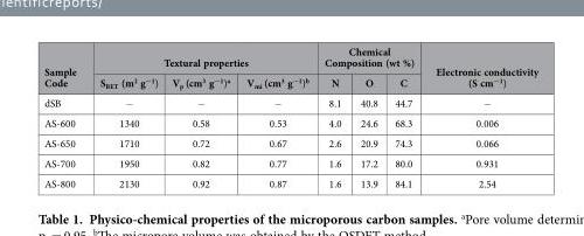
<table><thead><tr><td rowspan="2">Sample Code</td><td colspan="3">Textural properties</td><td colspan="3">Chemical Composition (wt %)</td><td rowspan="2">Electronic conductivity (S cm<sup>−1</sup>)</td></tr><tr><td>S<sub>BET</sub> (m<sup>2</sup> g<sup>−1</sup>)</td><td>V<sub>p</sub> (cm<sup>3</sup> g<sup>−1</sup>)<sup>a</sup></td><td>V<sub>mi</sub> (cm<sup>3</sup> g<sup>−1</sup>)<sup>b</sup></td><td>N</td><td>O</td><td>C</td></tr></thead><tbody><tr><td>dSB</td><td>−</td><td>−</td><td>−</td><td>8.1</td><td>40.8</td><td>44.7</td><td>−</td></tr><tr><td>AS-600</td><td>1340</td><td>0.58</td><td>0.53</td><td>4.0</td><td>24.6</td><td>68.3</td><td>0.006</td></tr><tr><td>AS-650</td><td>1710</td><td>0.72</td><td>0.67</td><td>2.6</td><td>20.9</td><td>74.3</td><td>0.066</td></tr><tr><td>AS-700</td><td>1950</td><td>0.82</td><td>0.77</td><td>1.6</td><td>17.2</td><td>80.0</td><td>0.931</td></tr><tr><td>AS-800</td><td>2130</td><td>0.92</td><td>0.87</td><td>1.6</td><td>13.9</td><td>84.1</td><td>2.54</td></tr></tbody></table>